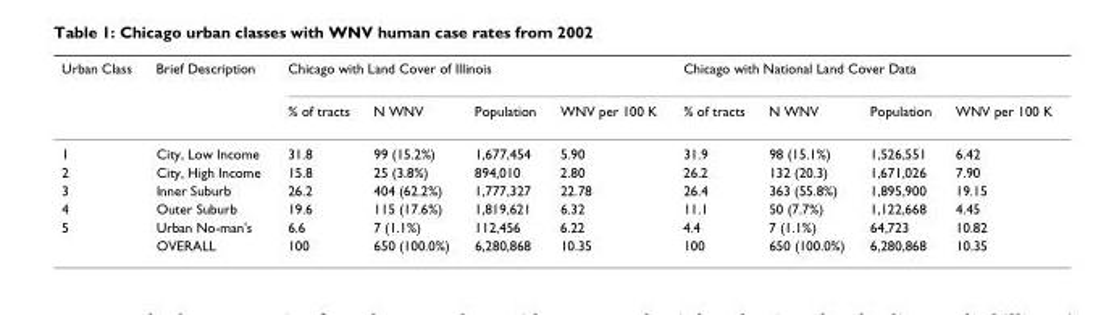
<table><thead><tr><td rowspan="2">Urban Class</td><td rowspan="2">Brief Description</td><td colspan="4">Chicago with Land Cover of Illinois</td><td colspan="4">Chicago with National Land Cover Data</td></tr><tr><td>% of tracts</td><td>N WNV</td><td>Population</td><td>WNV per 100 K</td><td>% of tracts</td><td>N WNV</td><td>Population</td><td>WNV per 100 K</td></tr></thead><tbody><tr><td>1</td><td>City, Low Income</td><td>31.8</td><td>99 (15.2%)</td><td>1,677,454</td><td>5.90</td><td>31.9</td><td>98 (15.1%)</td><td>1,526,551</td><td>6.42</td></tr><tr><td>2</td><td>City, High Income</td><td>15.8</td><td>25 (3.8%)</td><td>894,010</td><td>2.80</td><td>26.2</td><td>132 (20.3)</td><td>1,671,026</td><td>7.90</td></tr><tr><td>3</td><td>Inner Suburb</td><td>26.2</td><td>404 (62.2%)</td><td>1,777,327</td><td>22.78</td><td>26.4</td><td>363 (55.8%)</td><td>1,895,900</td><td>19.15</td></tr><tr><td>4</td><td>Outer Suburb</td><td>19.6</td><td>115 (17.6%)</td><td>1,819,621</td><td>6.32</td><td>11.1</td><td>50 (7.7%)</td><td>1,122,668</td><td>4.45</td></tr><tr><td rowspan="2">5</td><td>Urban No-man&#x27;s</td><td>6.6</td><td>7 (1.1%)</td><td>112,456</td><td>6.22</td><td>4.4</td><td>7 (1.1%)</td><td>64,723</td><td>10.82</td></tr><tr><td>OVERALL</td><td>100</td><td>650 (100.0%)</td><td>6,280,868</td><td>10.35</td><td>100</td><td>650 (100.0%)</td><td>6,280,868</td><td>10.35</td></tr></tbody></table>